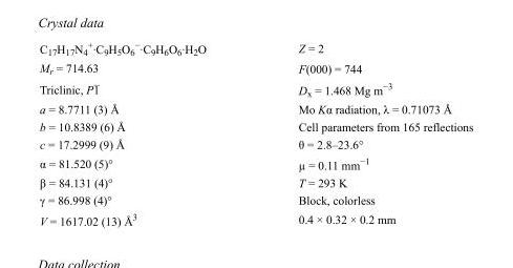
<table><tbody><tr><td>C<sub>17</sub>H<sub>17</sub>N<sub>4</sub> <sup>+</sup>·C<sub>9</sub>H<sub>5</sub>O<sub>6</sub> <sup>−</sup>·C<sub>9</sub>H<sub>6</sub>O<sub>6</sub>·H<sub>2</sub>O</td><td>Z = 2</td></tr><tr><td>M<sub>r</sub> = 714.63</td><td>F(000) = 744</td></tr><tr><td>Triclinic, P1</td><td>D<sub>x</sub> = 1.468 Mg m<sup>−3</sup></td></tr><tr><td>a = 8.7711 (3) Å</td><td>Mo Kα radiation, λ = 0.71073 Å</td></tr><tr><td>b = 10.8389 (6) Å</td><td>Cell parameters from 165 reflections</td></tr><tr><td>c = 17.2999 (9) Å</td><td>θ = 2.8–23.6°</td></tr><tr><td>α = 81.520 (5)°</td><td>µ = 0.11 mm<sup>−1</sup></td></tr><tr><td>β = 84.131 (4)°</td><td>T = 293 K</td></tr><tr><td>γ = 86.998 (4)°</td><td>Block, colorless</td></tr><tr><td>V = 1617.02 (13) Å<sup>3</sup></td><td>0.4 × 0.32 × 0.2 mm</td></tr></tbody></table>